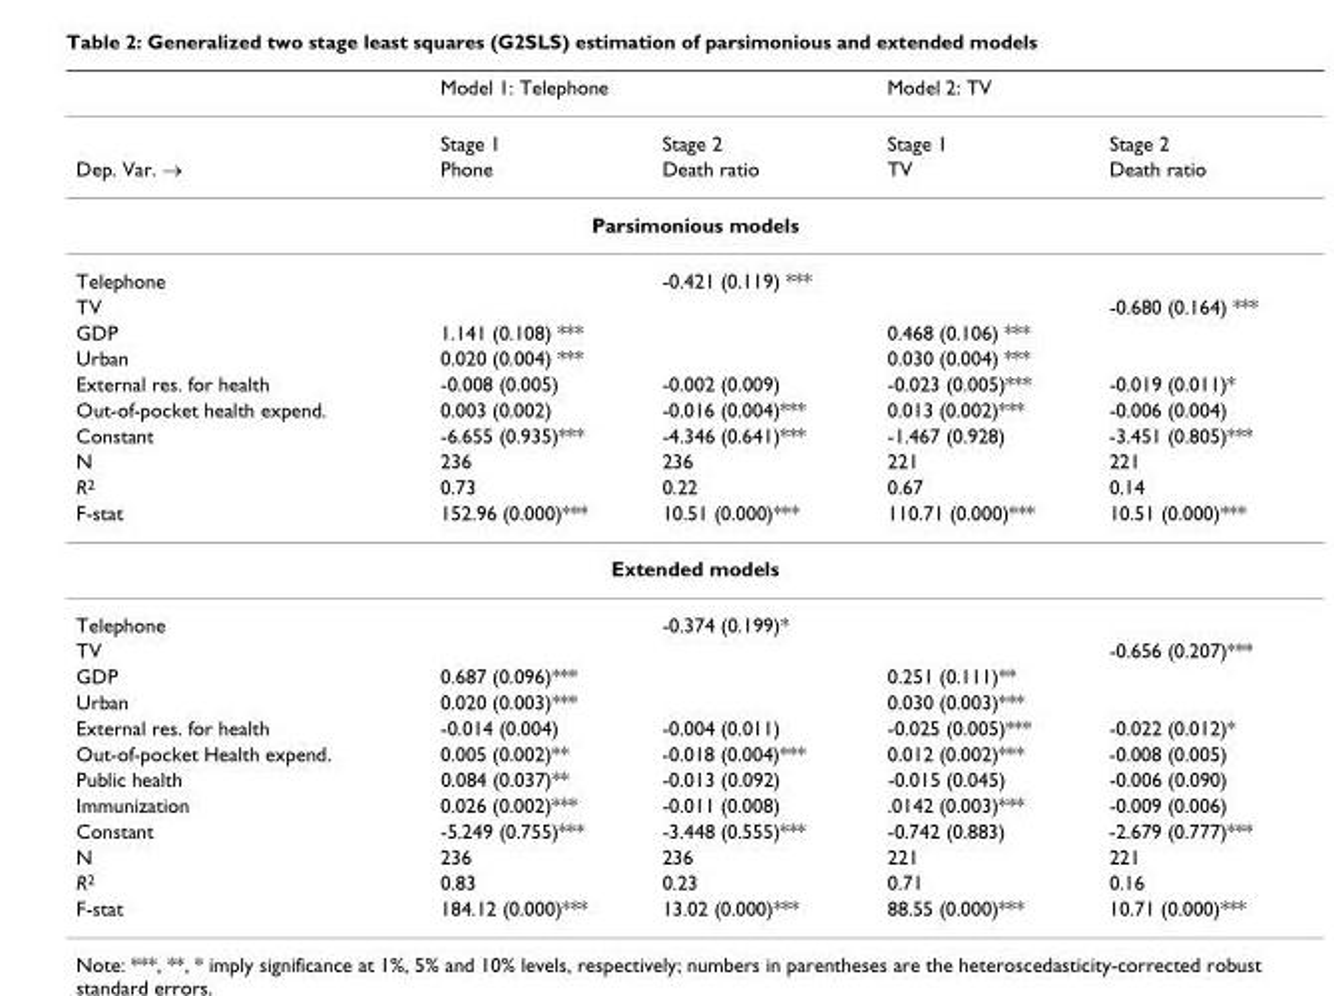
<table><thead><tr><td rowspan="2"></td><td colspan="2">Model 1: Telephone</td><td colspan="2">Model 2: TV</td></tr><tr><td>Stage 1</td><td>Stage 2</td><td>Stage 1</td><td>Stage 2</td></tr></thead><tbody><tr><td>Dep. Var. →</td><td>Phone</td><td>Death ratio</td><td>TV</td><td>Death ratio</td></tr><tr><td colspan="5">Parsimonious models</td></tr><tr><td>Telephone</td><td></td><td>-0.421 (0.119) ***</td><td></td><td></td></tr><tr><td>TV</td><td></td><td></td><td></td><td>-0.680 (0.164) ***</td></tr><tr><td>GDP</td><td>1.141 (0.108) ***</td><td></td><td>0.468 (0.106) ***</td><td></td></tr><tr><td>Urban</td><td>0.020 (0.004) ***</td><td></td><td>0.030 (0.004) ***</td><td></td></tr><tr><td>External res. for health</td><td>-0.008 (0.005)</td><td>-0.002 (0.009)</td><td>-0.023 (0.005)***</td><td>-0.019 (0.011)*</td></tr><tr><td>Out-of-pocket health expend.</td><td>0.003 (0.002)</td><td>-0.016 (0.004)***</td><td>0.013 (0.002)***</td><td>-0.006 (0.004)</td></tr><tr><td>Constant</td><td>-6.655 (0.935)***</td><td>-4.346 (0.641)***</td><td>-1.467 (0.928)</td><td>-3.451 (0.805)***</td></tr><tr><td>N</td><td>236</td><td>236</td><td>221</td><td>221</td></tr><tr><td>R<sup>2</sup></td><td>0.73</td><td>0.22</td><td>0.67</td><td>0.14</td></tr><tr><td>F-stat</td><td>152.96 (0.000)***</td><td>10.51 (0.000)***</td><td>110.71 (0.000)***</td><td>10.51 (0.000)***</td></tr><tr><td colspan="5">Extended models</td></tr><tr><td>Telephone</td><td></td><td>-0.374 (0.199)*</td><td></td><td></td></tr><tr><td>TV</td><td></td><td></td><td></td><td>-0.656 (0.207)***</td></tr><tr><td>GDP</td><td>0.687 (0.096)***</td><td></td><td>0.251 (0.111)**</td><td></td></tr><tr><td>Urban</td><td>0.020 (0.003)***</td><td></td><td>0.030 (0.003)***</td><td></td></tr><tr><td>External res. for health</td><td>-0.014 (0.004)</td><td>-0.004 (0.011)</td><td>-0.025 (0.005)***</td><td>-0.022 (0.012)*</td></tr><tr><td>Out-of-pocket Health expend.</td><td>0.005 (0.002)**</td><td>-0.018 (0.004)***</td><td>0.012 (0.002)***</td><td>-0.008 (0.005)</td></tr><tr><td>Public health</td><td>0.084 (0.037)**</td><td>-0.013 (0.092)</td><td>-0.015 (0.045)</td><td>-0.006 (0.090)</td></tr><tr><td>Immunization</td><td>0.026 (0.002)***</td><td>-0.011 (0.008)</td><td>.0142 (0.003)***</td><td>-0.009 (0.006)</td></tr><tr><td>Constant</td><td>-5.249 (0.755)***</td><td>-3.448 (0.555)***</td><td>-0.742 (0.883)</td><td>-2.679 (0.777)***</td></tr><tr><td>N</td><td>236</td><td>236</td><td>221</td><td>221</td></tr><tr><td>R<sup>2</sup></td><td>0.83</td><td>0.23</td><td>0.71</td><td>0.16</td></tr><tr><td>F-stat</td><td>184.12 (0.000)***</td><td>13.02 (0.000)***</td><td>88.55 (0.000)***</td><td>10.71 (0.000)***</td></tr></tbody></table>